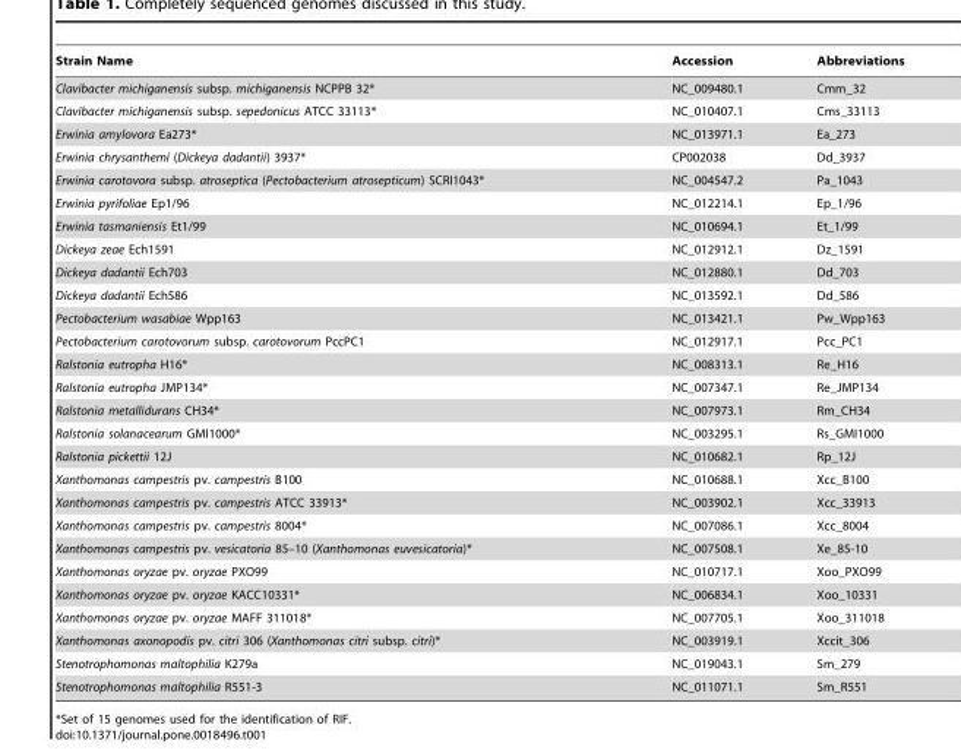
<table><thead><tr><td>Strain Name</td><td>Accession</td><td>Abbreviations</td></tr></thead><tbody><tr><td>Clavibacter michiganensis subsp. michiganensis NCPPB 32*</td><td>NC_009480.1</td><td>Cmm_32</td></tr><tr><td>Clavibacter michiganensis subsp. sepedonicus ATCC 33113*</td><td>NC_010407.1</td><td>Cms_33113</td></tr><tr><td>Erwinia amylovora Ea273*</td><td>NC_013971.1</td><td>Ea_273</td></tr><tr><td>Erwinia chrysanthemi (Dickeya dadantii) 3937*</td><td>CP002038</td><td>Dd_3937</td></tr><tr><td>Erwinia carotovora subsp. atroseptica (Pectobacterium atrosepticum) SCRI1043*</td><td>NC_004547.2</td><td>Pa_1043</td></tr><tr><td>Erwinia pyrifoliae Ep1/96</td><td>NC_012214.1</td><td>Ep_1/96</td></tr><tr><td>Erwinia tasmaniensis Et1/99</td><td>NC_010694.1</td><td>Et_1/99</td></tr><tr><td>Dickeya zeae Ech1591</td><td>NC_012912.1</td><td>Dz_1591</td></tr><tr><td>Dickeya dadantii Ech703</td><td>NC_012880.1</td><td>Dd_703</td></tr><tr><td>Dickeya dadantii Ech586</td><td>NC_013592.1</td><td>Dd_586</td></tr><tr><td>Pectobacterium wasabiae Wpp163</td><td>NC_013421.1</td><td>Pw_Wpp163</td></tr><tr><td>Pectobacterium carotovorum subsp. carotovorum PccPC1</td><td>NC_012917.1</td><td>Pcc_PC1</td></tr><tr><td>Ralstonia eutropha H16*</td><td>NC_008313.1</td><td>Re_H16</td></tr><tr><td>Ralstonia eutropha JMP134*</td><td>NC_007347.1</td><td>Re_JMP134</td></tr><tr><td>Ralstonia metallidurans CH34*</td><td>NC_007973.1</td><td>Rm_CH34</td></tr><tr><td>Ralstonia solanacearum GMI1000*</td><td>NC_003295.1</td><td>Rs_GMI1000</td></tr><tr><td>Ralstonia pickettii 12J</td><td>NC_010682.1</td><td>Rp_12J</td></tr><tr><td>Xanthomonas campestris pv. campestris B100</td><td>NC_010688.1</td><td>Xcc_B100</td></tr><tr><td>Xanthomonas campestris pv. campestris ATCC 33913*</td><td>NC_003902.1</td><td>Xcc_33913</td></tr><tr><td>Xanthomonas campestris pv. campestris 8004*</td><td>NC_007086.1</td><td>Xcc_8004</td></tr><tr><td>Xanthomonas campestris pv. vesicatoria 85–10 (Xanthomonas euvesicatoria)*</td><td>NC_007508.1</td><td>Xe_85-10</td></tr><tr><td>Xanthomonas oryzae pv. oryzae PXO99</td><td>NC_010717.1</td><td>Xoo_PXO99</td></tr><tr><td>Xanthomonas oryzae pv. oryzae KACC10331*</td><td>NC_006834.1</td><td>Xoo_10331</td></tr><tr><td>Xanthomonas oryzae pv. oryzae MAFF 311018*</td><td>NC_007705.1</td><td>Xoo_311018</td></tr><tr><td>Xanthomonas axonopodis pv. citri 306 (Xanthomonas citri subsp. citri)*</td><td>NC_003919.1</td><td>Xccit_306</td></tr><tr><td>Stenotrophomonas maltophilia K279a</td><td>NC_019043.1</td><td>Sm_279</td></tr><tr><td>Stenotrophomonas maltophilia R551-3</td><td>NC_011071.1</td><td>Sm_R551</td></tr></tbody></table>